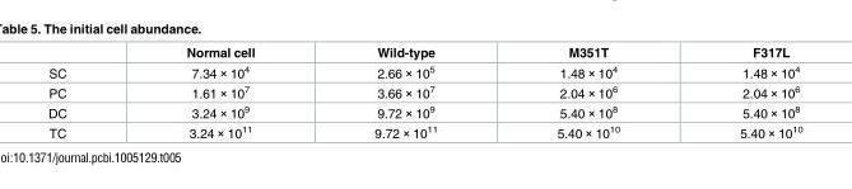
<table><thead><tr><td></td><td>Normal cell</td><td>Wild-type</td><td>M351T</td><td>F317L</td></tr></thead><tbody><tr><td>SC</td><td>7.34 × 10<sup>4</sup></td><td>2.66 × 10<sup>5</sup></td><td>1.48 × 10<sup>4</sup></td><td>1.48 × 10<sup>4</sup></td></tr><tr><td>PC</td><td>1.61 × 10<sup>7</sup></td><td>3.66 × 10<sup>7</sup></td><td>2.04 × 10<sup>6</sup></td><td>2.04 × 10<sup>6</sup></td></tr><tr><td>DC</td><td>3.24 × 10<sup>9</sup></td><td>9.72 × 10<sup>9</sup></td><td>5.40 × 10<sup>8</sup></td><td>5.40 × 10<sup>8</sup></td></tr><tr><td>TC</td><td>3.24 × 10<sup>11</sup></td><td>9.72 × 10<sup>11</sup></td><td>5.40 × 10<sup>10</sup></td><td>5.40 × 10<sup>10</sup></td></tr></tbody></table>